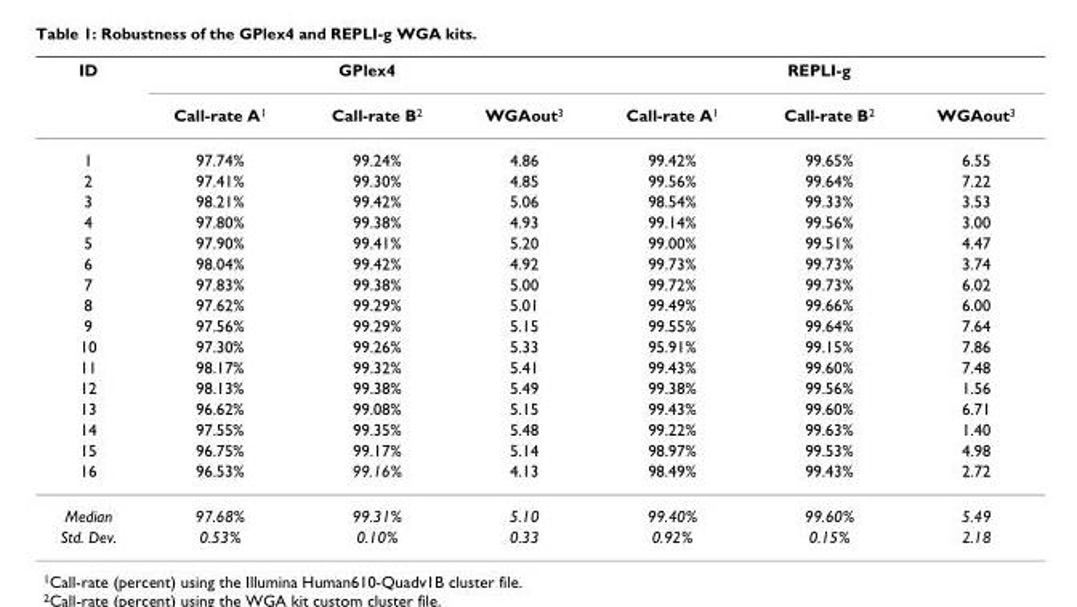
<table><thead><tr><td rowspan="2">ID</td><td colspan="3">GPlex4</td><td colspan="3">REPLI-g</td></tr><tr><td>Call-rate A<sup>1</sup></td><td>Call-rate B<sup>2</sup></td><td>WGAout<sup>3</sup></td><td>Call-rate A<sup>1</sup></td><td>Call-rate B<sup>2</sup></td><td>WGAout<sup>3</sup></td></tr></thead><tbody><tr><td>1</td><td>97.74%</td><td>99.24%</td><td>4.86</td><td>99.42%</td><td>99.65%</td><td>6.55</td></tr><tr><td>2</td><td>97.41%</td><td>99.30%</td><td>4.85</td><td>99.56%</td><td>99.64%</td><td>7.22</td></tr><tr><td>3</td><td>98.21%</td><td>99.42%</td><td>5.06</td><td>98.54%</td><td>99.33%</td><td>3.53</td></tr><tr><td>4</td><td>97.80%</td><td>99.38%</td><td>4.93</td><td>99.14%</td><td>99.56%</td><td>3.00</td></tr><tr><td>5</td><td>97.90%</td><td>99.41%</td><td>5.20</td><td>99.00%</td><td>99.51%</td><td>4.47</td></tr><tr><td>6</td><td>98.04%</td><td>99.42%</td><td>4.92</td><td>99.73%</td><td>99.73%</td><td>3.74</td></tr><tr><td>7</td><td>97.83%</td><td>99.38%</td><td>5.00</td><td>99.72%</td><td>99.73%</td><td>6.02</td></tr><tr><td>8</td><td>97.62%</td><td>99.29%</td><td>5.01</td><td>99.49%</td><td>99.66%</td><td>6.00</td></tr><tr><td>9</td><td>97.56%</td><td>99.29%</td><td>5.15</td><td>99.55%</td><td>99.64%</td><td>7.64</td></tr><tr><td>10</td><td>97.30%</td><td>99.26%</td><td>5.33</td><td>95.91%</td><td>99.15%</td><td>7.86</td></tr><tr><td>11</td><td>98.17%</td><td>99.32%</td><td>5.41</td><td>99.43%</td><td>99.60%</td><td>7.48</td></tr><tr><td>12</td><td>98.13%</td><td>99.38%</td><td>5.49</td><td>99.38%</td><td>99.56%</td><td>1.56</td></tr><tr><td>13</td><td>96.62%</td><td>99.08%</td><td>5.15</td><td>99.43%</td><td>99.60%</td><td>6.71</td></tr><tr><td>14</td><td>97.55%</td><td>99.35%</td><td>5.48</td><td>99.22%</td><td>99.63%</td><td>1.40</td></tr><tr><td>15</td><td>96.75%</td><td>99.17%</td><td>5.14</td><td>98.97%</td><td>99.53%</td><td>4.98</td></tr><tr><td>16</td><td>96.53%</td><td>99.16%</td><td>4.13</td><td>98.49%</td><td>99.43%</td><td>2.72</td></tr><tr><td>Median</td><td>97.68%</td><td>99.31%</td><td>5.10</td><td>99.40%</td><td>99.60%</td><td>5.49</td></tr><tr><td>Std. Dev.</td><td>0.53%</td><td>0.10%</td><td>0.33</td><td>0.92%</td><td>0.15%</td><td>2.18</td></tr></tbody></table>